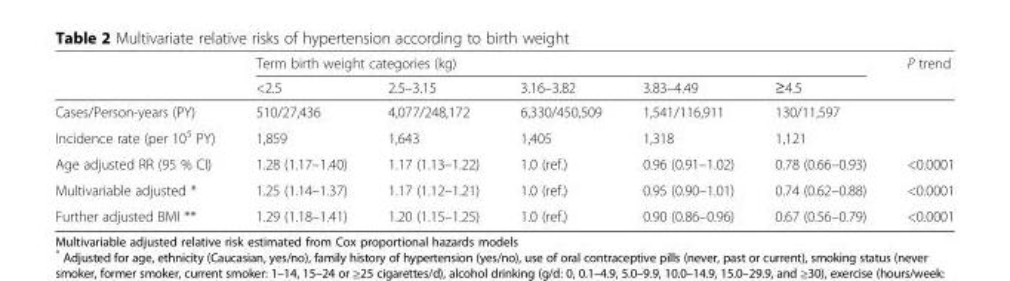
<table><thead><tr><td rowspan="2"></td><td colspan="5">Term birth weight categories (kg)</td><td rowspan="2">P trend</td></tr><tr><td>&lt;2.5</td><td>2.5–3.15</td><td>3.16–3.82</td><td>3.83–4.49</td><td>≥4.5</td></tr></thead><tbody><tr><td>Cases/Person-years (PY)</td><td>510/27,436</td><td>4,077/248,172</td><td>6,330/450,509</td><td>1,541/116,911</td><td>130/11,597</td><td></td></tr><tr><td>Incidence rate (per 10<sup>5</sup> PY)</td><td>1,859</td><td>1,643</td><td>1,405</td><td>1,318</td><td>1,121</td><td></td></tr><tr><td>Age adjusted RR (95 % CI)</td><td>1.28 (1.17–1.40)</td><td>1.17 (1.13–1.22)</td><td>1.0 (ref.)</td><td>0.96 (0.91–1.02)</td><td>0.78 (0.66–0.93)</td><td>&lt;0.0001</td></tr><tr><td>Multivariable adjusted *</td><td>1.25 (1.14–1.37)</td><td>1.17 (1.12–1.21)</td><td>1.0 (ref.)</td><td>0.95 (0.90–1.01)</td><td>0.74 (0.62–0.88)</td><td>&lt;0.0001</td></tr><tr><td>Further adjusted BMI **</td><td>1.29 (1.18–1.41)</td><td>1.20 (1.15–1.25)</td><td>1.0 (ref.)</td><td>0.90 (0.86–0.96)</td><td>0.67 (0.56–0.79)</td><td>&lt;0.0001</td></tr></tbody></table>